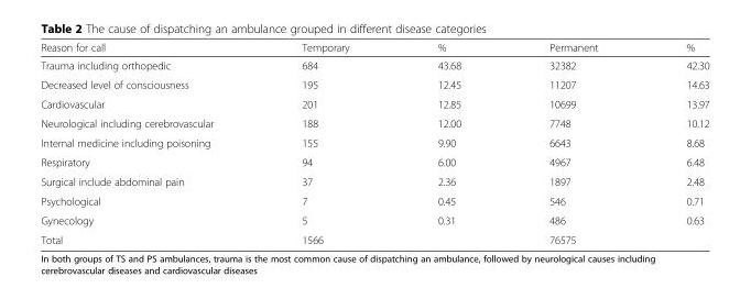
<table><thead><tr><td>Reason for call</td><td>Temporary</td><td>%</td><td>Permanent</td><td>%</td></tr></thead><tbody><tr><td>Trauma including orthopedic</td><td>684</td><td>43.68</td><td>32382</td><td>42.30</td></tr><tr><td>Decreased level of consciousness</td><td>195</td><td>12.45</td><td>11207</td><td>14.63</td></tr><tr><td>Cardiovascular</td><td>201</td><td>12.85</td><td>10699</td><td>13.97</td></tr><tr><td>Neurological including cerebrovascular</td><td>188</td><td>12.00</td><td>7748</td><td>10.12</td></tr><tr><td>Internal medicine including poisoning</td><td>155</td><td>9.90</td><td>6643</td><td>8.68</td></tr><tr><td>Respiratory</td><td>94</td><td>6.00</td><td>4967</td><td>6.48</td></tr><tr><td>Surgical include abdominal pain</td><td>37</td><td>2.36</td><td>1897</td><td>2.48</td></tr><tr><td>Psychological</td><td>7</td><td>0.45</td><td>546</td><td>0.71</td></tr><tr><td>Gynecology</td><td>5</td><td>0.31</td><td>486</td><td>0.63</td></tr><tr><td>Total</td><td>1566</td><td></td><td>76575</td><td></td></tr></tbody></table>